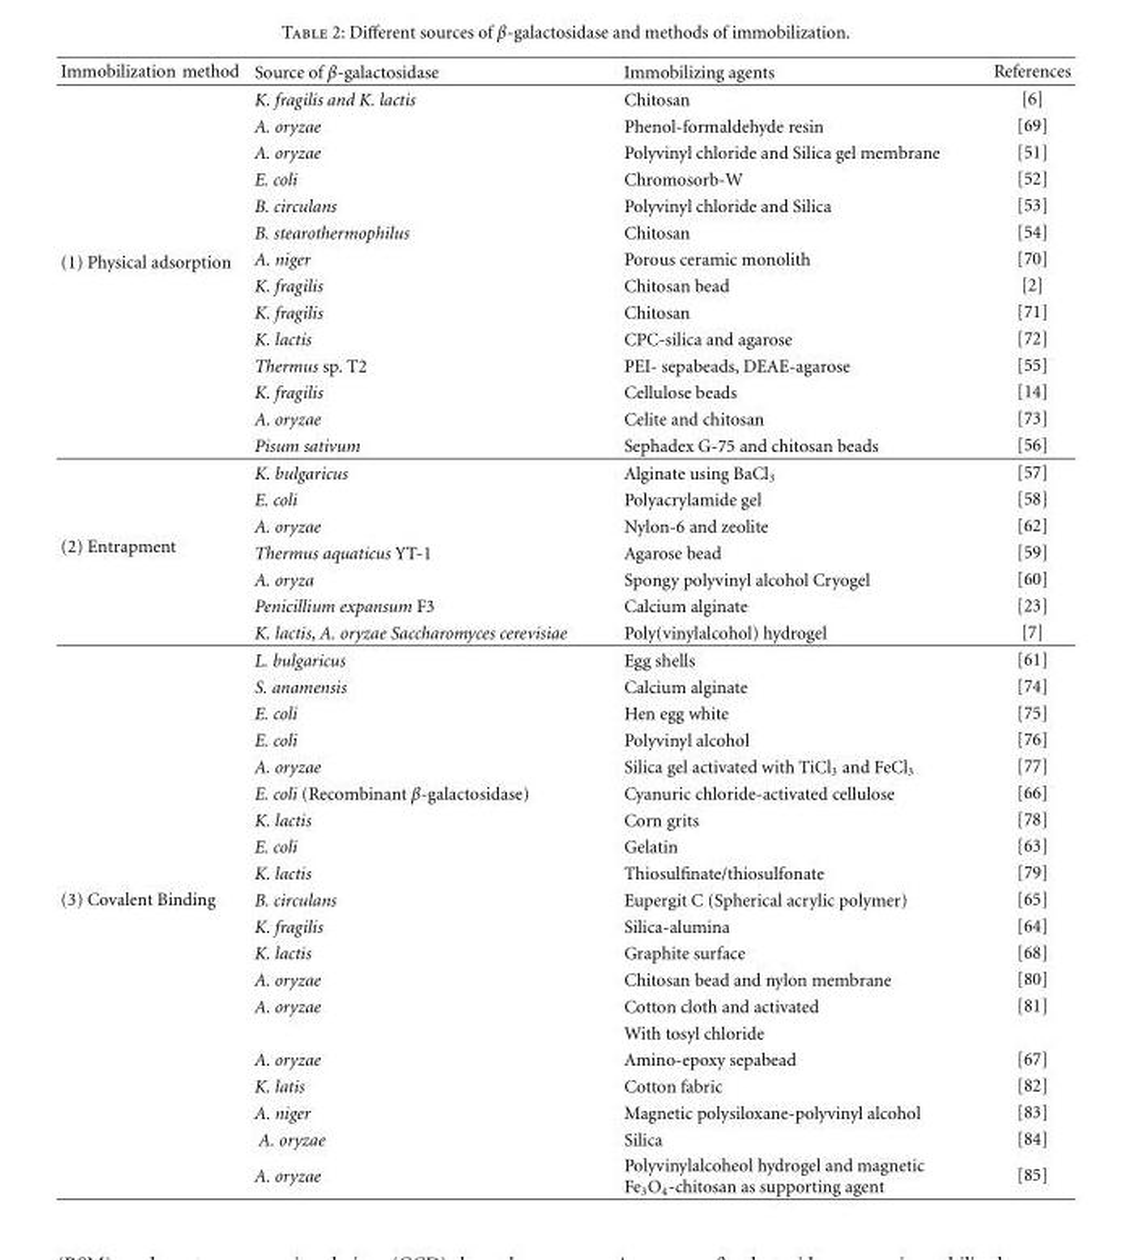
<table><thead><tr><td>Immobilization method</td><td>Source of β-galactosidase</td><td>Immobilizing agents</td><td>References</td></tr></thead><tbody><tr><td rowspan="14">(1) Physical adsorption</td><td>K. fragilis and K. lactis</td><td>Chitosan</td><td>[6]</td></tr><tr><td>A. oryzae</td><td>Phenol-formaldehyde resin</td><td>[69]</td></tr><tr><td>A. oryzae</td><td>Polyvinyl chloride and Silica gel membrane</td><td>[51]</td></tr><tr><td>E. coli</td><td>Chromosorb-W</td><td>[52]</td></tr><tr><td>B. circulans</td><td>Polyvinyl chloride and Silica</td><td>[53]</td></tr><tr><td>B. stearothermophilus</td><td>Chitosan</td><td>[54]</td></tr><tr><td>A. niger</td><td>Porous ceramic monolith</td><td>[70]</td></tr><tr><td>K. fragilis</td><td>Chitosan bead</td><td>[2]</td></tr><tr><td>K. fragilis</td><td>Chitosan</td><td>[71]</td></tr><tr><td>K. lactis</td><td>CPC-silica and agarose</td><td>[72]</td></tr><tr><td>Thermus sp. T2</td><td>PEI- sepabeads, DEAE-agarose</td><td>[55]</td></tr><tr><td>K. fragilis</td><td>Cellulose beads</td><td>[14]</td></tr><tr><td>A. oryzae</td><td>Celite and chitosan</td><td>[73]</td></tr><tr><td>Pisum sativum</td><td>Sephadex G-75 and chitosan beads</td><td>[56]</td></tr><tr><td rowspan="7">(2) Entrapment</td><td>K. bulgaricus</td><td>Alginate using BaCl<sub>3</sub></td><td>[57]</td></tr><tr><td>E. coli</td><td>Polyacrylamide gel</td><td>[58]</td></tr><tr><td>A. oryzae</td><td>Nylon-6 and zeolite</td><td>[62]</td></tr><tr><td>Thermus aquaticus YT-1</td><td>Agarose bead</td><td>[59]</td></tr><tr><td>A. oryza</td><td>Spongy polyvinyl alcohol Cryogel</td><td>[60]</td></tr><tr><td>Penicillium expansum F3</td><td>Calcium alginate</td><td>[23]</td></tr><tr><td>K. lactis, A. oryzae Saccharomyces cerevisiae</td><td>Poly(vinylalcohol) hydrogel</td><td>[7]</td></tr><tr><td rowspan="20">(3) Covalent Binding</td><td>L. bulgaricus</td><td>Egg shells</td><td>[61]</td></tr><tr><td>S. anamensis</td><td>Calcium alginate</td><td>[74]</td></tr><tr><td>E. coli</td><td>Hen egg white</td><td>[75]</td></tr><tr><td>E. coli</td><td>Polyvinyl alcohol</td><td>[76]</td></tr><tr><td>A. oryzae</td><td>Silica gel activated with TiCl<sub>3</sub> and FeCl<sub>3</sub></td><td>[77]</td></tr><tr><td>E. coli (Recombinant β-galactosidase)</td><td>Cyanuric chloride-activated cellulose</td><td>[66]</td></tr><tr><td>K. lactis</td><td>Corn grits</td><td>[78]</td></tr><tr><td>E. coli</td><td>Gelatin</td><td>[63]</td></tr><tr><td>K. lactis</td><td>Thiosulfinate/thiosulfonate</td><td>[79]</td></tr><tr><td>B. circulans</td><td>Eupergit C (Spherical acrylic polymer)</td><td>[65]</td></tr><tr><td>K. fragilis</td><td>Silica-alumina</td><td>[64]</td></tr><tr><td>K. lactis</td><td>Graphite surface</td><td>[68]</td></tr><tr><td>A. oryzae</td><td>Chitosan bead and nylon membrane</td><td>[80]</td></tr><tr><td>A. oryzae</td><td>Cotton cloth and activated</td><td>[81]</td></tr><tr><td></td><td>With tosyl chloride</td><td></td></tr><tr><td>A. oryzae</td><td>Amino-epoxy sepabead</td><td>[67]</td></tr><tr><td>K. latis</td><td>Cotton fabric</td><td>[82]</td></tr><tr><td>A. niger</td><td>Magnetic polysiloxane-polyvinyl alcohol</td><td>[83]</td></tr><tr><td>A. oryzae</td><td>Silica</td><td>[84]</td></tr><tr><td>A. oryzae</td><td>Polyvinylalcoheol hydrogel and magnetic Fe<sub>3</sub>O<sub>4</sub>-chitosan as supporting agent</td><td>[85]</td></tr></tbody></table>